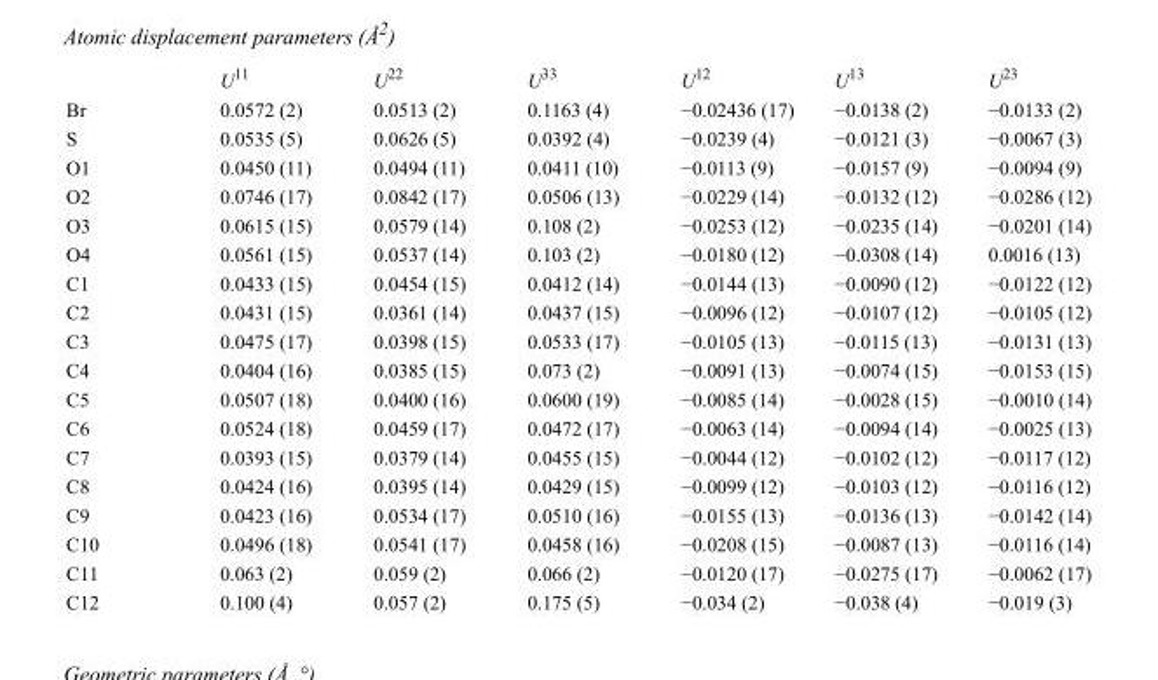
<table><thead><tr><td></td><td>U<sup>11</sup></td><td>U<sup>22</sup></td><td>U<sup>33</sup></td><td>U<sup>12</sup></td><td>U<sup>13</sup></td><td>U<sup>23</sup></td></tr></thead><tbody><tr><td>Br</td><td>0.0572 (2)</td><td>0.0513 (2)</td><td>0.1163 (4)</td><td>−0.02436 (17)</td><td>−0.0138 (2)</td><td>−0.0133 (2)</td></tr><tr><td>S</td><td>0.0535 (5)</td><td>0.0626 (5)</td><td>0.0392 (4)</td><td>−0.0239 (4)</td><td>−0.0121 (3)</td><td>−0.0067 (3)</td></tr><tr><td>O1</td><td>0.0450 (11)</td><td>0.0494 (11)</td><td>0.0411 (10)</td><td>−0.0113 (9)</td><td>−0.0157 (9)</td><td>−0.0094 (9)</td></tr><tr><td>O2</td><td>0.0746 (17)</td><td>0.0842 (17)</td><td>0.0506 (13)</td><td>−0.0229 (14)</td><td>−0.0132 (12)</td><td>−0.0286 (12)</td></tr><tr><td>O3</td><td>0.0615 (15)</td><td>0.0579 (14)</td><td>0.108 (2)</td><td>−0.0253 (12)</td><td>−0.0235 (14)</td><td>−0.0201 (14)</td></tr><tr><td>O4</td><td>0.0561 (15)</td><td>0.0537 (14)</td><td>0.103 (2)</td><td>−0.0180 (12)</td><td>−0.0308 (14)</td><td>0.0016 (13)</td></tr><tr><td>C1</td><td>0.0433 (15)</td><td>0.0454 (15)</td><td>0.0412 (14)</td><td>−0.0144 (13)</td><td>−0.0090 (12)</td><td>−0.0122 (12)</td></tr><tr><td>C2</td><td>0.0431 (15)</td><td>0.0361 (14)</td><td>0.0437 (15)</td><td>−0.0096 (12)</td><td>−0.0107 (12)</td><td>−0.0105 (12)</td></tr><tr><td>C3</td><td>0.0475 (17)</td><td>0.0398 (15)</td><td>0.0533 (17)</td><td>−0.0105 (13)</td><td>−0.0115 (13)</td><td>−0.0131 (13)</td></tr><tr><td>C4</td><td>0.0404 (16)</td><td>0.0385 (15)</td><td>0.073 (2)</td><td>−0.0091 (13)</td><td>−0.0074 (15)</td><td>−0.0153 (15)</td></tr><tr><td>C5</td><td>0.0507 (18)</td><td>0.0400 (16)</td><td>0.0600 (19)</td><td>−0.0085 (14)</td><td>−0.0028 (15)</td><td>−0.0010 (14)</td></tr><tr><td>C6</td><td>0.0524 (18)</td><td>0.0459 (17)</td><td>0.0472 (17)</td><td>−0.0063 (14)</td><td>−0.0094 (14)</td><td>−0.0025 (13)</td></tr><tr><td>C7</td><td>0.0393 (15)</td><td>0.0379 (14)</td><td>0.0455 (15)</td><td>−0.0044 (12)</td><td>−0.0102 (12)</td><td>−0.0117 (12)</td></tr><tr><td>C8</td><td>0.0424 (16)</td><td>0.0395 (14)</td><td>0.0429 (15)</td><td>−0.0099 (12)</td><td>−0.0103 (12)</td><td>−0.0116 (12)</td></tr><tr><td>C9</td><td>0.0423 (16)</td><td>0.0534 (17)</td><td>0.0510 (16)</td><td>−0.0155 (13)</td><td>−0.0136 (13)</td><td>−0.0142 (14)</td></tr><tr><td>C10</td><td>0.0496 (18)</td><td>0.0541 (17)</td><td>0.0458 (16)</td><td>−0.0208 (15)</td><td>−0.0087 (13)</td><td>−0.0116 (14)</td></tr><tr><td>C11</td><td>0.063 (2)</td><td>0.059 (2)</td><td>0.066 (2)</td><td>−0.0120 (17)</td><td>−0.0275 (17)</td><td>−0.0062 (17)</td></tr><tr><td>C12</td><td>0.100 (4)</td><td>0.057 (2)</td><td>0.175 (5)</td><td>−0.034 (2)</td><td>−0.038 (4)</td><td>−0.019 (3)</td></tr></tbody></table>